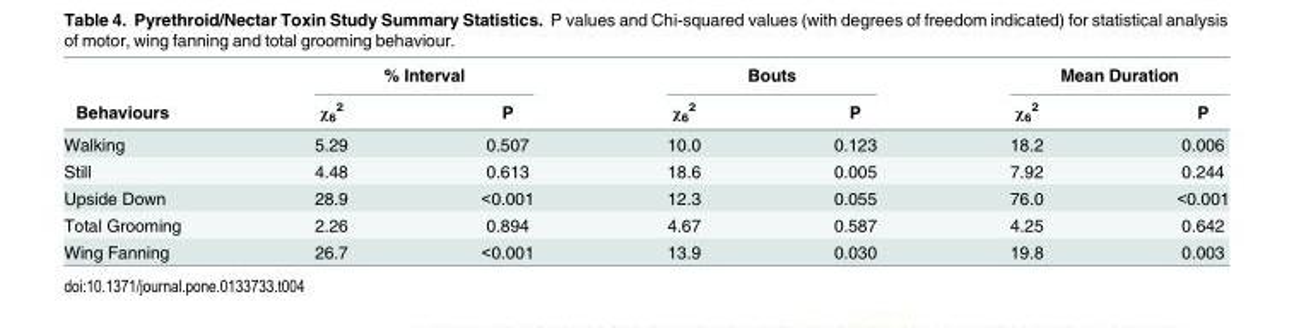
<table><thead><tr><td rowspan="2">Behaviours</td><td colspan="2">% Interval</td><td colspan="2">Bouts</td><td colspan="2">Mean Duration</td></tr><tr><td>χ<sub>6</sub> <sup>2</sup></td><td>P</td><td>χ<sub>6</sub> <sup>2</sup></td><td>P</td><td>χ<sub>6</sub> <sup>2</sup></td><td>P</td></tr></thead><tbody><tr><td>Walking</td><td>5.29</td><td>0.507</td><td>10.0</td><td>0.123</td><td>18.2</td><td>0.006</td></tr><tr><td>Still</td><td>4.48</td><td>0.613</td><td>18.6</td><td>0.005</td><td>7.92</td><td>0.244</td></tr><tr><td>Upside Down</td><td>28.9</td><td>&lt;0.001</td><td>12.3</td><td>0.055</td><td>76.0</td><td>&lt;0.001</td></tr><tr><td>Total Grooming</td><td>2.26</td><td>0.894</td><td>4.67</td><td>0.587</td><td>4.25</td><td>0.642</td></tr><tr><td>Wing Fanning</td><td>26.7</td><td>&lt;0.001</td><td>13.9</td><td>0.030</td><td>19.8</td><td>0.003</td></tr></tbody></table>